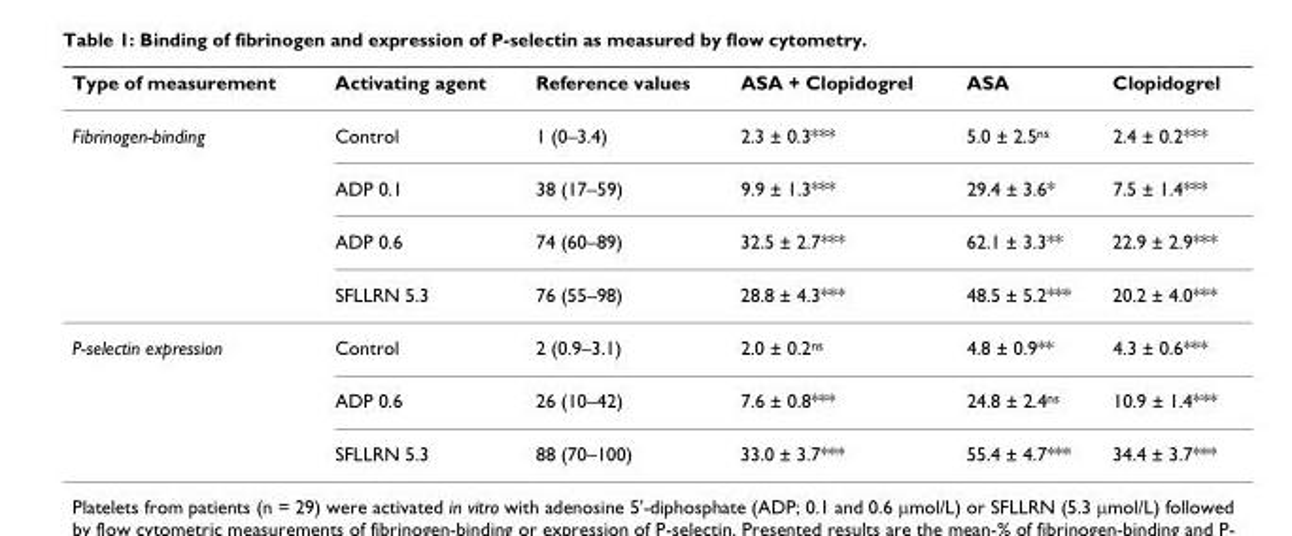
<table><thead><tr><td>Type of measurement</td><td>Activating agent</td><td>Reference values</td><td>ASA + Clopidogrel</td><td>ASA</td><td>Clopidogrel</td></tr></thead><tbody><tr><td rowspan="4">Fibrinogen-binding</td><td>Control</td><td>1 (0–3.4)</td><td>2.3 ± 0.3***</td><td>5.0 ± 2.5<sup>ns</sup></td><td>2.4 ± 0.2***</td></tr><tr><td>ADP 0.1</td><td>38 (17–59)</td><td>9.9 ± 1.3***</td><td>29.4 ± 3.6*</td><td>7.5 ± 1.4***</td></tr><tr><td>ADP 0.6</td><td>74 (60–89)</td><td>32.5 ± 2.7***</td><td>62.1 ± 3.3**</td><td>22.9 ± 2.9***</td></tr><tr><td>SFLLRN 5.3</td><td>76 (55–98)</td><td>28.8 ± 4.3***</td><td>48.5 ± 5.2***</td><td>20.2 ± 4.0***</td></tr><tr><td rowspan="3">P-selectin expression</td><td>Control</td><td>2 (0.9–3.1)</td><td>2.0 ± 0.2<sup>ns</sup></td><td>4.8 ± 0.9**</td><td>4.3 ± 0.6***</td></tr><tr><td>ADP 0.6</td><td>26 (10–42)</td><td>7.6 ± 0.8***</td><td>24.8 ± 2.4<sup>ns</sup></td><td>10.9 ± 1.4***</td></tr><tr><td>SFLLRN 5.3</td><td>88 (70–100)</td><td>33.0 ± 3.7***</td><td>55.4 ± 4.7***</td><td>34.4 ± 3.7***</td></tr></tbody></table>